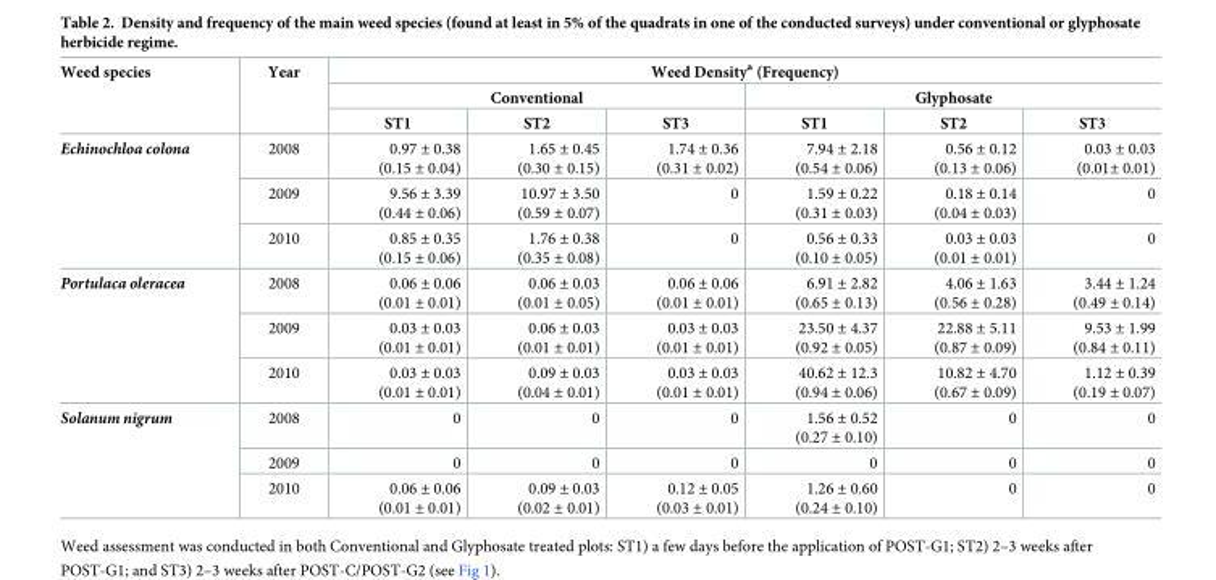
<table><thead><tr><td rowspan="3">Weed species</td><td rowspan="3">Year</td><td colspan="6">Weed Density<sup>a</sup> (Frequency)</td></tr><tr><td colspan="3">Conventional</td><td colspan="3">Glyphosate</td></tr><tr><td>ST1</td><td>ST2</td><td>ST3</td><td>ST1</td><td>ST2</td><td>ST3</td></tr></thead><tbody><tr><td rowspan="3">Echinochloa colona</td><td>2008</td><td>0.97 ± 0.38 (0.15 ± 0.04)</td><td>1.65 ± 0.45 (0.30 ± 0.15)</td><td>1.74 ± 0.36 (0.31 ± 0.02)</td><td>7.94 ± 2.18 (0.54 ± 0.06)</td><td>0.56 ± 0.12 (0.13 ± 0.06)</td><td>0.03 ± 0.03 (0.01± 0.01)</td></tr><tr><td>2009</td><td>9.56 ± 3.39 (0.44 ± 0.06)</td><td>10.97 ± 3.50 (0.59 ± 0.07)</td><td>0</td><td>1.59 ± 0.22 (0.31 ± 0.03)</td><td>0.18 ± 0.14 (0.04 ± 0.03)</td><td>0</td></tr><tr><td>2010</td><td>0.85 ± 0.35 (0.15 ± 0.06)</td><td>1.76 ± 0.38 (0.35 ± 0.08)</td><td>0</td><td>0.56 ± 0.33 (0.10 ± 0.05)</td><td>0.03 ± 0.03 (0.01 ± 0.01)</td><td>0</td></tr><tr><td rowspan="3">Portulaca oleracea</td><td>2008</td><td>0.06 ± 0.06 (0.01 ± 0.01)</td><td>0.06 ± 0.03 (0.01 ± 0.05)</td><td>0.06 ± 0.06 (0.01 ± 0.01)</td><td>6.91 ± 2.82 (0.65 ± 0.13)</td><td>4.06 ± 1.63 (0.56 ± 0.28)</td><td>3.44 ± 1.24 (0.49 ± 0.14)</td></tr><tr><td>2009</td><td>0.03 ± 0.03 (0.01 ± 0.01)</td><td>0.06 ± 0.03 (0.01 ± 0.01)</td><td>0.03 ± 0.03 (0.01 ± 0.01)</td><td>23.50 ± 4.37 (0.92 ± 0.05)</td><td>22.88 ± 5.11 (0.87 ± 0.09)</td><td>9.53 ± 1.99 (0.84 ± 0.11)</td></tr><tr><td>2010</td><td>0.03 ± 0.03 (0.01 ± 0.01)</td><td>0.09 ± 0.03 (0.04 ± 0.01)</td><td>0.03 ± 0.03 (0.01 ± 0.01)</td><td>40.62 ± 12.3 (0.94 ± 0.06)</td><td>10.82 ± 4.70 (0.67 ± 0.09)</td><td>1.12 ± 0.39 (0.19 ± 0.07)</td></tr><tr><td rowspan="3">Solanum nigrum</td><td>2008</td><td>0</td><td>0</td><td>0</td><td>1.56 ± 0.52 (0.27 ± 0.10)</td><td>0</td><td>0</td></tr><tr><td>2009</td><td>0</td><td>0</td><td>0</td><td>0</td><td>0</td><td>0</td></tr><tr><td>2010</td><td>0.06 ± 0.06 (0.01 ± 0.01)</td><td>0.09 ± 0.03 (0.02 ± 0.01)</td><td>0.12 ± 0.05 (0.03 ± 0.01)</td><td>1.26 ± 0.60 (0.24 ± 0.10)</td><td>0</td><td>0</td></tr></tbody></table>